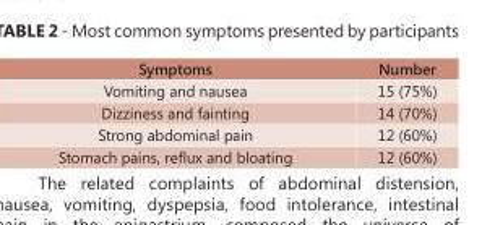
<table><thead><tr><td>Symptoms</td><td>Number</td></tr></thead><tbody><tr><td>Vomiting and nausea</td><td>15 (75%)</td></tr><tr><td>Dizziness and fainting</td><td>14 (70%)</td></tr><tr><td>Strong abdominal pain</td><td>12 (60%)</td></tr><tr><td>Stomach pains, reflux and bloating</td><td>12 (60%)</td></tr></tbody></table>